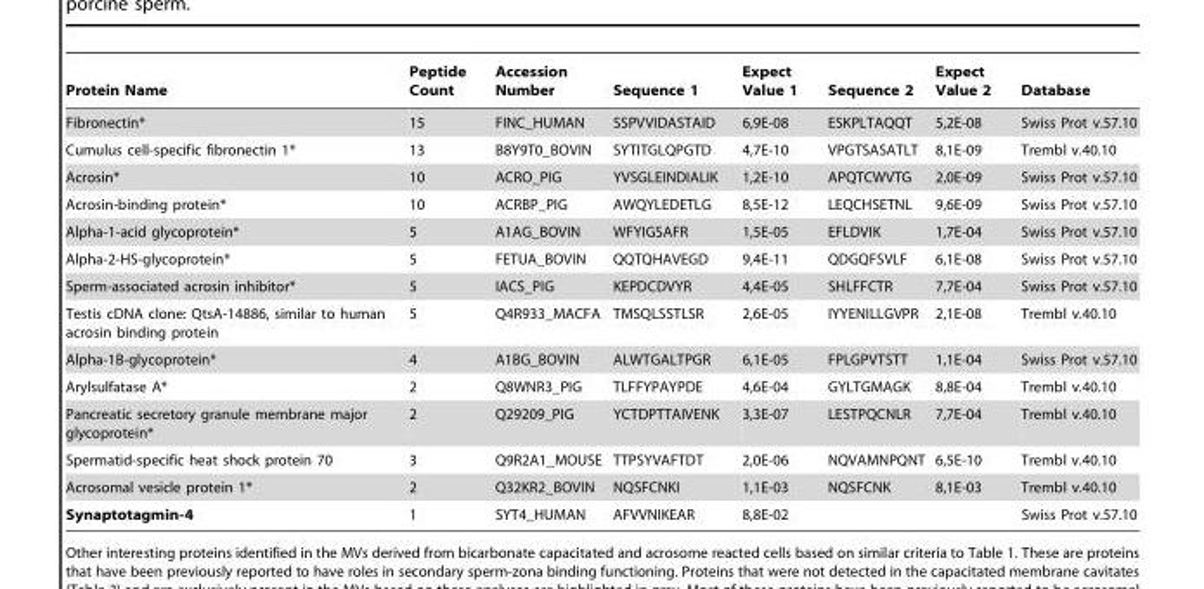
<table><thead><tr><td>Protein Name</td><td>Peptide Count</td><td>Accession Number</td><td>Sequence 1</td><td>Expect Value 1</td><td>Sequence 2</td><td>Expect Value 2</td><td>Database</td></tr></thead><tbody><tr><td>Fibronectin*</td><td>15</td><td>FINC_HUMAN</td><td>SSPVVIDASTAID</td><td>6,9E-08</td><td>ESKPLTAQQT</td><td>5,2E-08</td><td>Swiss Prot v.57.10</td></tr><tr><td>Cumulus cell-specific fibronectin 1*</td><td>13</td><td>B8Y9T0_BOVIN</td><td>SYTITGLQPGTD</td><td>4,7E-10</td><td>VPGTSASATLT</td><td>8,1E-09</td><td>Trembl v.40.10</td></tr><tr><td>Acrosin*</td><td>10</td><td>ACRO_PIG</td><td>YVSGLEINDIALIK</td><td>1,2E-10</td><td>APQTCWVTG</td><td>2,0E-09</td><td>Swiss Prot v.57.10</td></tr><tr><td>Acrosin-binding protein*</td><td>10</td><td>ACRBP_PIG</td><td>AWQYLEDETLG</td><td>8,5E-12</td><td>LEQCHSETNL</td><td>9,6E-09</td><td>Swiss Prot v.57.10</td></tr><tr><td>Alpha-1-acid glycoprotein*</td><td>5</td><td>A1AG_BOVIN</td><td>WFYIGSAFR</td><td>1,5E-05</td><td>EFLDVIK</td><td>1,7E-04</td><td>Swiss Prot v.57.10</td></tr><tr><td>Alpha-2-HS-glycoprotein*</td><td>5</td><td>FETUA_BOVIN</td><td>QQTQHAVEGD</td><td>9,4E-11</td><td>QDGQFSVLF</td><td>6,1E-08</td><td>Swiss Prot v.57.10</td></tr><tr><td>Sperm-associated acrosin inhibitor*</td><td>5</td><td>IACS_PIG</td><td>KEPDCDVYR</td><td>4,4E-05</td><td>SHLFFCTR</td><td>7,7E-04</td><td>Swiss Prot v.57.10</td></tr><tr><td>Testis cDNA clone: QtsA-14886, similar to human acrosin binding protein</td><td>5</td><td>Q4R933_MACFA</td><td>TMSQLSSTLSR</td><td>2,6E-05</td><td>IYYENILLGVPR</td><td>2,1E-08</td><td>Trembl v.40.10</td></tr><tr><td>Alpha-1B-glycoprotein*</td><td>4</td><td>A1BG_BOVIN</td><td>ALWTGALTPGR</td><td>6,1E-05</td><td>FPLGPVTSTT</td><td>1,1E-04</td><td>Swiss Prot v.57.10</td></tr><tr><td>Arylsulfatase A*</td><td>2</td><td>Q8WNR3_PIG</td><td>TLFFYPAYPDE</td><td>4,6E-04</td><td>GYLTGMAGK</td><td>8,8E-04</td><td>Trembl v.40.10</td></tr><tr><td>Pancreatic secretory granule membrane major glycoprotein*</td><td>2</td><td>Q29209_PIG</td><td>YCTDPTTAIVENK</td><td>3,3E-07</td><td>LESTPQCNLR</td><td>7,7E-04</td><td>Trembl v.40.10</td></tr><tr><td>Spermatid-specific heat shock protein 70</td><td>3</td><td>Q9R2A1_MOUSE</td><td>TTPSYVAFTDT</td><td>2,0E-06</td><td>NQVAMNPQNT</td><td>6,5E-10</td><td>Trembl v.40.10</td></tr><tr><td>Acrosomal vesicle protein 1*</td><td>2</td><td>Q32KR2_BOVIN</td><td>NQSFCNKI</td><td>1,1E-03</td><td>NQSFCNK</td><td>8,1E-03</td><td>Trembl v.40.10</td></tr><tr><td>Synaptotagmin-4</td><td>1</td><td>SYT4_HUMAN</td><td>AFVVNIKEAR</td><td>8,8E-02</td><td></td><td></td><td>Swiss Prot v.57.10</td></tr></tbody></table>